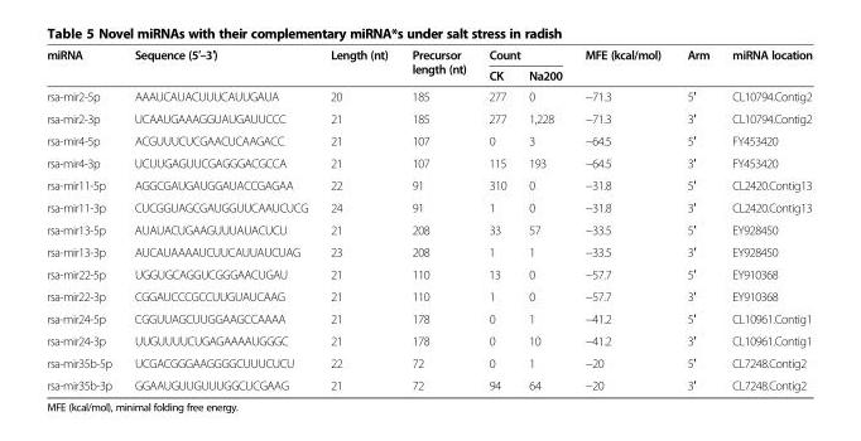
<table><thead><tr><td rowspan="2">miRNA</td><td rowspan="2">Sequence (5′–3′)</td><td rowspan="2">Length (nt)</td><td rowspan="2">Precursor length (nt)</td><td colspan="2">Count</td><td rowspan="2">MFE (kcal/mol)</td><td rowspan="2">Arm</td><td rowspan="2">miRNA location</td></tr><tr><td>CK</td><td>Na200</td></tr></thead><tbody><tr><td>rsa-mir2-5p</td><td>AAAUCAUACUUUCAUUGAUA</td><td>20</td><td>185</td><td>277</td><td>0</td><td>−71.3</td><td>5′</td><td>CL10794.Contig2</td></tr><tr><td>rsa-mir2-3p</td><td>UCAAUGAAAGGUAUGAUUCCC</td><td>21</td><td>185</td><td>277</td><td>1,228</td><td>−71.3</td><td>3′</td><td>CL10794.Contig2</td></tr><tr><td>rsa-mir4-5p</td><td>ACGUUUCUCGAACUCAAGACC</td><td>21</td><td>107</td><td>0</td><td>3</td><td>−64.5</td><td>5′</td><td>FY453420</td></tr><tr><td>rsa-mir4-3p</td><td>UCUUGAGUUCGAGGGACGCCA</td><td>21</td><td>107</td><td>115</td><td>193</td><td>−64.5</td><td>3′</td><td>FY453420</td></tr><tr><td>rsa-mir11-5p</td><td>AGGCGAUGAUGGAUACCGAGAA</td><td>22</td><td>91</td><td>310</td><td>0</td><td>−31.8</td><td>5′</td><td>CL2420.Contig13</td></tr><tr><td>rsa-mir11-3p</td><td>CUCGGUAGCGAUGGUUCAAUCUCG</td><td>24</td><td>91</td><td>1</td><td>0</td><td>−31.8</td><td>3′</td><td>CL2420.Contig13</td></tr><tr><td>rsa-mir13-5p</td><td>AUAUACUGAAGUUUAUACUCU</td><td>21</td><td>208</td><td>33</td><td>57</td><td>−33.5</td><td>5′</td><td>EY928450</td></tr><tr><td>rsa-mir13-3p</td><td>AUCAUAAAAUCUUCAUUAUCUAG</td><td>23</td><td>208</td><td>1</td><td>1</td><td>−33.5</td><td>3′</td><td>EY928450</td></tr><tr><td>rsa-mir22-5p</td><td>UGGUGCAGGUCGGGAACUGAU</td><td>21</td><td>110</td><td>13</td><td>0</td><td>−57.7</td><td>5′</td><td>EY910368</td></tr><tr><td>rsa-mir22-3p</td><td>CGGAUCCCGCCUUGUAUCAAG</td><td>21</td><td>110</td><td>1</td><td>0</td><td>−57.7</td><td>3′</td><td>EY910368</td></tr><tr><td>rsa-mir24-5p</td><td>CGGUUAGCUUGGAAGCCAAAA</td><td>21</td><td>178</td><td>0</td><td>1</td><td>−41.2</td><td>5′</td><td>CL10961.Contig1</td></tr><tr><td>rsa-mir24-3p</td><td>UUGUUUUCUGAGAAAAUGGGC</td><td>21</td><td>178</td><td>0</td><td>10</td><td>−41.2</td><td>3′</td><td>CL10961.Contig1</td></tr><tr><td>rsa-mir35b-5p</td><td>UCGACGGGAAGGGGCUUUCUCU</td><td>22</td><td>72</td><td>0</td><td>1</td><td>−20</td><td>5′</td><td>CL7248.Contig2</td></tr><tr><td>rsa-mir35b-3p</td><td>GGAAUGUUGUUUGGCUCGAAG</td><td>21</td><td>72</td><td>94</td><td>64</td><td>−20</td><td>3′</td><td>CL7248.Contig2</td></tr></tbody></table>